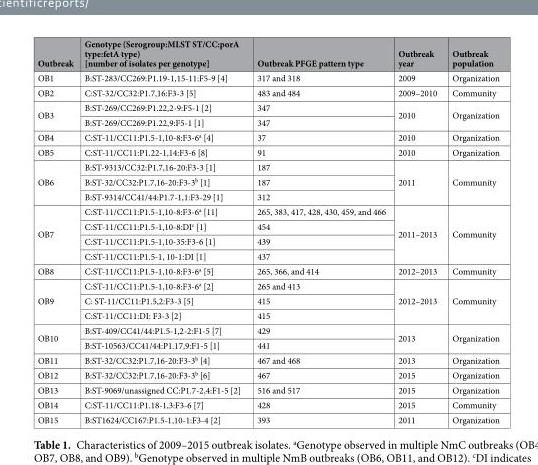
<table><thead><tr><td>Outbreak</td><td>Genotype (Serogroup:MLST ST/CC:porA type:fetA type) [number of isolates per genotype]</td><td>Outbreak PFGE pattern type</td><td>Outbreak year</td><td>Outbreak population</td></tr></thead><tbody><tr><td>OB1</td><td>B:ST-283/CC269:P1.19-1,15-11:F5-9 [4]</td><td>317 and 318</td><td>2009</td><td>Organization</td></tr><tr><td>OB2</td><td>C:ST-32/CC32:P1.7,16:F3-3 [5]</td><td>483 and 484</td><td>2009–2010</td><td>Community</td></tr><tr><td rowspan="2">OB3</td><td>B:ST-269/CC269:P1.22,2-9:F5-1 [2]</td><td>347</td><td rowspan="2">2010</td><td rowspan="2">Organization</td></tr><tr><td>B:ST-269/CC269:P1.22,9:F5-1 [1]</td><td>347</td></tr><tr><td>OB4</td><td>C:ST-11/CC11:P1.5-1,10-8:F3-6<sup>a</sup> [4]</td><td>37</td><td>2010</td><td>Organization</td></tr><tr><td>OB5</td><td>C:ST-11/CC11:P1.22-1,14:F3-6 [8]</td><td>91</td><td>2010</td><td>Organization</td></tr><tr><td rowspan="3">OB6</td><td>B:ST-9313/CC32:P1.7,16-20:F3-3 [1]</td><td>187</td><td rowspan="3">2011</td><td rowspan="3">Community</td></tr><tr><td>B:ST-32/CC32:P1.7,16-20:F3-3<sup>b</sup> [1]</td><td>187</td></tr><tr><td>B:ST-9314/CC41/44:P1.7-1,1:F3-29 [1]</td><td>312</td></tr><tr><td rowspan="4">OB7</td><td>C:ST-11/CC11:P1.5-1,10-8:F3-6<sup>a</sup> [11]</td><td>265, 383, 417, 428, 430, 459, and 466</td><td rowspan="4">2011–2013</td><td rowspan="4">Community</td></tr><tr><td>C:ST-11/CC11:P1.5-1,10-8:DI<sup>c</sup> [1]</td><td>454</td></tr><tr><td>C:ST-11/CC11:P1.5-1,10-35:F3-6 [1]</td><td>439</td></tr><tr><td>C:ST-11/CC11:P1.5-1, 10-1:DI [1]</td><td>437</td></tr><tr><td>OB8</td><td>C:ST-11/CC11:P1.5-1,10-8:F3-6<sup>a</sup> [5]</td><td>265, 366, and 414</td><td>2012–2013</td><td>Community</td></tr><tr><td rowspan="3">OB9</td><td>C:ST-11/CC11:P1.5-1,10-8:F3-6<sup>a</sup> [2]</td><td>265 and 413</td><td rowspan="3">2012–2013</td><td rowspan="3">Community</td></tr><tr><td>C: ST-11/CC11:P1.5,2:F3-3 [5]</td><td>415</td></tr><tr><td>C:ST-11/CC11:DI: F3-3 [2]</td><td>415</td></tr><tr><td rowspan="2">OB10</td><td>B:ST-409/CC41/44:P1.5-1,2-2:F1-5 [7]</td><td>429</td><td rowspan="2">2013</td><td rowspan="2">Organization</td></tr><tr><td>B:ST-10563/CC41/44:P1.17,9:F1-5 [1]</td><td>441</td></tr><tr><td>OB11</td><td>B:ST-32/CC32:P1.7,16-20:F3-3<sup>b</sup> [4]</td><td>467 and 468</td><td>2013</td><td>Organization</td></tr><tr><td>OB12</td><td>B:ST-32/CC32:P1.7,16-20:F3-3<sup>b</sup> [6]</td><td>467</td><td>2015</td><td>Organization</td></tr><tr><td>OB13</td><td>B:ST-9069/unassigned CC:P1.7-2,4:F1-5 [2]</td><td>516 and 517</td><td>2015</td><td>Organization</td></tr><tr><td>OB14</td><td>C:ST-11/CC11:P1.18-1,3:F3-6 [7]</td><td>428</td><td>2015</td><td>Community</td></tr><tr><td>OB15</td><td>B:ST1624/CC167:P1.5-1,10-1:F3-4 [2]</td><td>393</td><td>2011</td><td>Organization</td></tr></tbody></table>